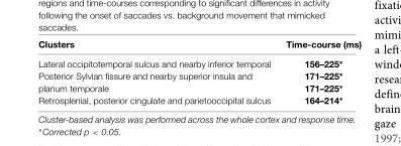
<table><thead><tr><td>Clusters</td><td>Time-course (ms)</td></tr></thead><tbody><tr><td>Lateral occipitotemporal sulcus and nearby inferior temporal</td><td>156–225∗</td></tr><tr><td>Posterior Sylvian fissure and nearby superior insula and</td><td>171–225∗</td></tr><tr><td>planum temporale</td><td>171–225∗</td></tr><tr><td>Retrosplenial, posterior cingulate and parietooccipital sulcus</td><td>164–214∗</td></tr></tbody></table>